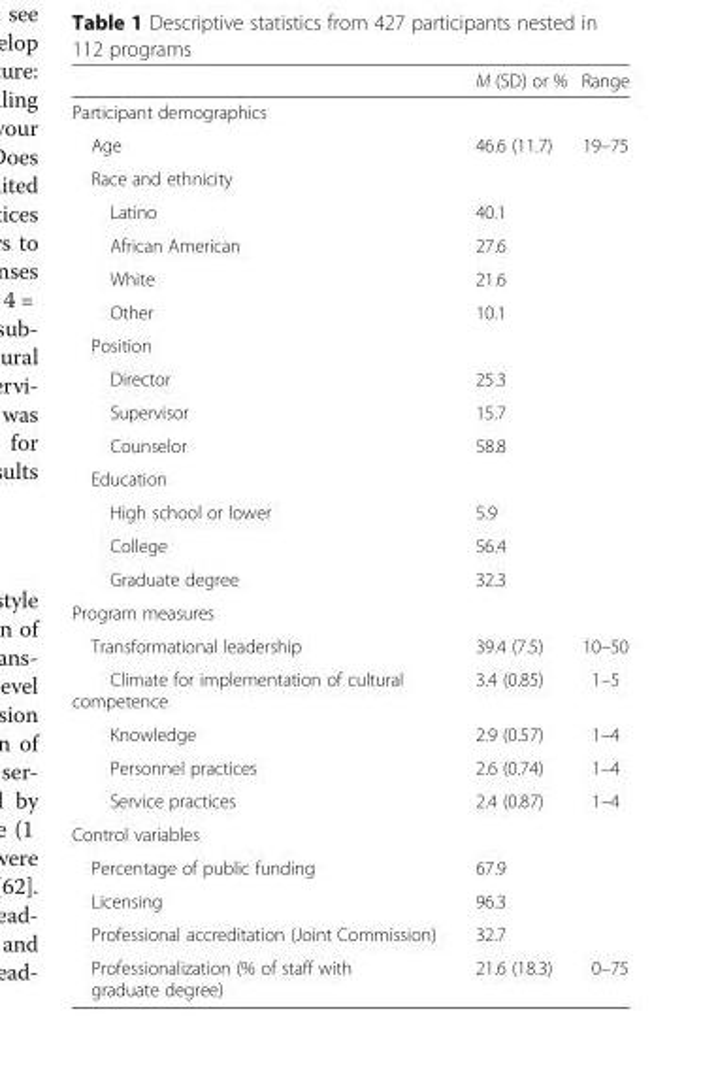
<table><thead><tr><td></td><td>M (SD) or %</td><td>Range</td></tr></thead><tbody><tr><td colspan="3">Participant demographics</td></tr><tr><td>Age</td><td>46.6 (11.7)</td><td>19–75</td></tr><tr><td colspan="3">Race and ethnicity</td></tr><tr><td>Latino</td><td>40.1</td><td></td></tr><tr><td>African American</td><td>27.6</td><td></td></tr><tr><td>White</td><td>21.6</td><td></td></tr><tr><td>Other</td><td>10.1</td><td></td></tr><tr><td colspan="3">Position</td></tr><tr><td>Director</td><td>25.3</td><td></td></tr><tr><td>Supervisor</td><td>15.7</td><td></td></tr><tr><td>Counselor</td><td>58.8</td><td></td></tr><tr><td colspan="3">Education</td></tr><tr><td>High school or lower</td><td>5.9</td><td></td></tr><tr><td>College</td><td>56.4</td><td></td></tr><tr><td>Graduate degree</td><td>32.3</td><td></td></tr><tr><td colspan="3">Program measures</td></tr><tr><td>Transformational leadership</td><td>39.4 (7.5)</td><td>10–50</td></tr><tr><td>Climate for implementation of cultural competence</td><td>3.4 (0.85)</td><td>1–5</td></tr><tr><td>Knowledge</td><td>2.9 (0.57)</td><td>1–4</td></tr><tr><td>Personnel practices</td><td>2.6 (0.74)</td><td>1–4</td></tr><tr><td>Service practices</td><td>2.4 (0.87)</td><td>1–4</td></tr><tr><td colspan="3">Control variables</td></tr><tr><td>Percentage of public funding</td><td>67.9</td><td></td></tr><tr><td>Licensing</td><td>96.3</td><td></td></tr><tr><td>Professional accreditation (Joint Commission)</td><td>32.7</td><td></td></tr><tr><td>Professionalization (% of staff with graduate degree)</td><td>21.6 (18.3)</td><td>0–75</td></tr></tbody></table>